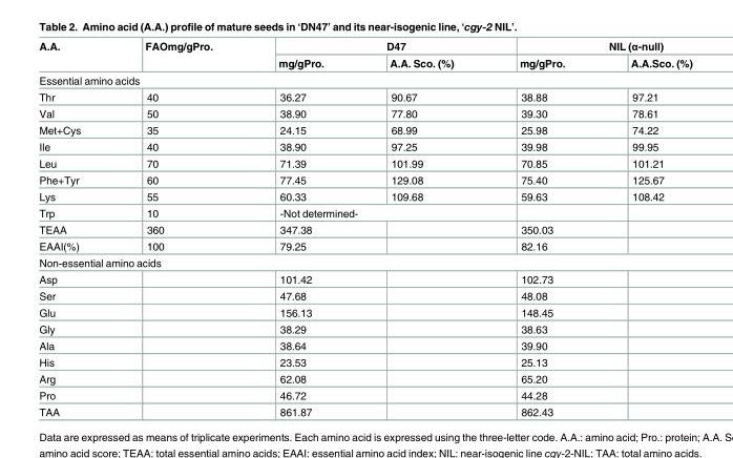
<table><thead><tr><td rowspan="2">A.A.</td><td rowspan="2">FAOmg/gPro.</td><td colspan="2">D47</td><td colspan="2">NIL (α-null)</td></tr><tr><td>mg/gPro.</td><td>A.A. Sco. (%)</td><td>mg/gPro.</td><td>A.A.Sco. (%)</td></tr></thead><tbody><tr><td colspan="6">Essential amino acids</td></tr><tr><td>Thr</td><td>40</td><td>36.27</td><td>90.67</td><td>38.88</td><td>97.21</td></tr><tr><td>Val</td><td>50</td><td>38.90</td><td>77.80</td><td>39.30</td><td>78.61</td></tr><tr><td>Met+Cys</td><td>35</td><td>24.15</td><td>68.99</td><td>25.98</td><td>74.22</td></tr><tr><td>Ile</td><td>40</td><td>38.90</td><td>97.25</td><td>39.98</td><td>99.95</td></tr><tr><td>Leu</td><td>70</td><td>71.39</td><td>101.99</td><td>70.85</td><td>101.21</td></tr><tr><td>Phe+Tyr</td><td>60</td><td>77.45</td><td>129.08</td><td>75.40</td><td>125.67</td></tr><tr><td>Lys</td><td>55</td><td>60.33</td><td>109.68</td><td>59.63</td><td>108.42</td></tr><tr><td>Trp</td><td>10</td><td colspan="2">-Not determined-</td><td></td><td></td></tr><tr><td>TEAA</td><td>360</td><td>347.38</td><td></td><td>350.03</td><td></td></tr><tr><td>EAAI(%)</td><td>100</td><td>79.25</td><td></td><td>82.16</td><td></td></tr><tr><td colspan="6">Non-essential amino acids</td></tr><tr><td>Asp</td><td></td><td>101.42</td><td></td><td>102.73</td><td></td></tr><tr><td>Ser</td><td></td><td>47.68</td><td></td><td>48.08</td><td></td></tr><tr><td>Glu</td><td></td><td>156.13</td><td></td><td>148.45</td><td></td></tr><tr><td>Gly</td><td></td><td>38.29</td><td></td><td>38.63</td><td></td></tr><tr><td>Ala</td><td></td><td>38.64</td><td></td><td>39.90</td><td></td></tr><tr><td>His</td><td></td><td>23.53</td><td></td><td>25.13</td><td></td></tr><tr><td>Arg</td><td></td><td>62.08</td><td></td><td>65.20</td><td></td></tr><tr><td>Pro</td><td></td><td>46.72</td><td></td><td>44.28</td><td></td></tr><tr><td>TAA</td><td></td><td>861.87</td><td></td><td>862.43</td><td></td></tr></tbody></table>